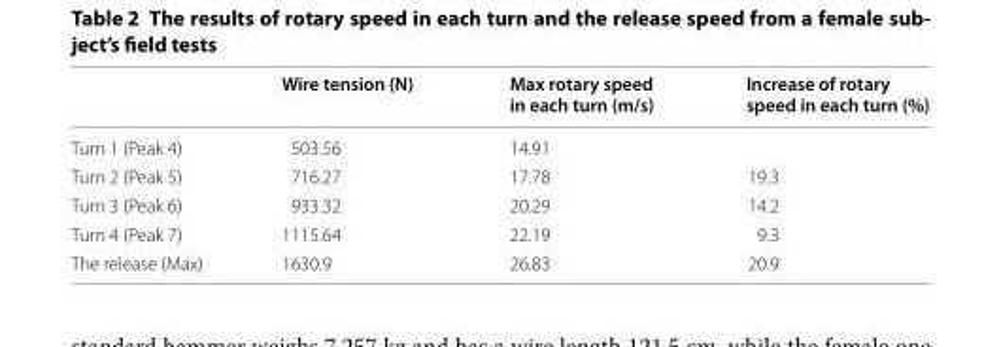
<table><thead><tr><td></td><td>Wire tension (N)</td><td>Max rotary speed in each turn (m/s)</td><td>Increase of rotary speed in each turn (%)</td></tr></thead><tbody><tr><td>Turn 1 (Peak 4)</td><td>503.56</td><td>14.91</td><td></td></tr><tr><td>Turn 2 (Peak 5)</td><td>716.27</td><td>17.78</td><td>19.3</td></tr><tr><td>Turn 3 (Peak 6)</td><td>933.32</td><td>20.29</td><td>14.2</td></tr><tr><td>Turn 4 (Peak 7)</td><td>1115.64</td><td>22.19</td><td>9.3</td></tr><tr><td>The release (Max)</td><td>1630.9</td><td>26.83</td><td>20.9</td></tr></tbody></table>